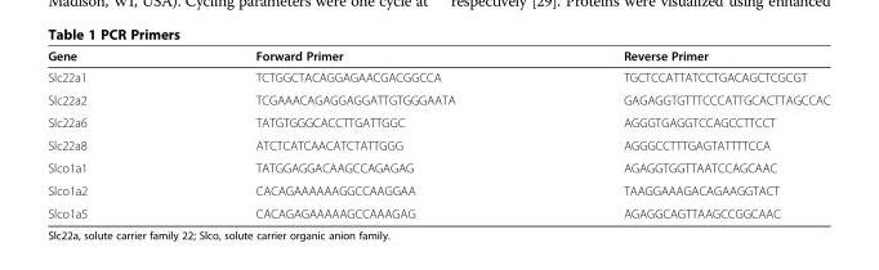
<table><thead><tr><td>Gene</td><td>Forward Primer</td><td>Reverse Primer</td></tr></thead><tbody><tr><td>Slc22a1</td><td>TCTGGCTACAGGAGAACGACGGCCA</td><td>TGCTCCATTATCCTGACAGCTCGCGT</td></tr><tr><td>Slc22a2</td><td>TCGAAACAGAGGAGGATTGTGGGAATA</td><td>GAGAGGTGTTTCCCATTGCACTTAGCCAC</td></tr><tr><td>Slc22a6</td><td>TATGTGGGCACCTTGATTGGC</td><td>AGGGTGAGGTCCAGCCTTCCT</td></tr><tr><td>Slc22a8</td><td>ATCTCATCAACATCTATTGGG</td><td>AGGGCCTTTGAGTATTTTCCA</td></tr><tr><td>Slco1a1</td><td>TATGGAGGACAAGCCAGAGAG</td><td>AGAGGTGGTTAATCCAGCAAC</td></tr><tr><td>Slco1a2</td><td>CACAGAAAAAAGGCCAAGGAA</td><td>TAAGGAAAGACAGAAGGTACT</td></tr><tr><td>Slco1a5</td><td>CACAGAGAAAAAGCCAAAGAG</td><td>AGAGGCAGTTAAGCCGGCAAC</td></tr></tbody></table>